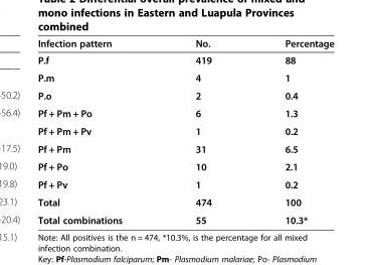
<table><thead><tr><td>Infection pattern</td><td>No.</td><td>Percentage</td></tr></thead><tbody><tr><td>P.f</td><td>419</td><td>88</td></tr><tr><td>P.m</td><td>4</td><td>1</td></tr><tr><td>P.o</td><td>2</td><td>0.4</td></tr><tr><td>Pf + Pm + Po</td><td>6</td><td>1.3</td></tr><tr><td>Pf + Pm + Pv</td><td>1</td><td>0.2</td></tr><tr><td>Pf + Pm</td><td>31</td><td>6.5</td></tr><tr><td>Pf + Po</td><td>10</td><td>2.1</td></tr><tr><td>Pf + Pv</td><td>1</td><td>0.2</td></tr><tr><td>Total</td><td>474</td><td>100</td></tr><tr><td>Total combinations</td><td>55</td><td>10.3*</td></tr></tbody></table>